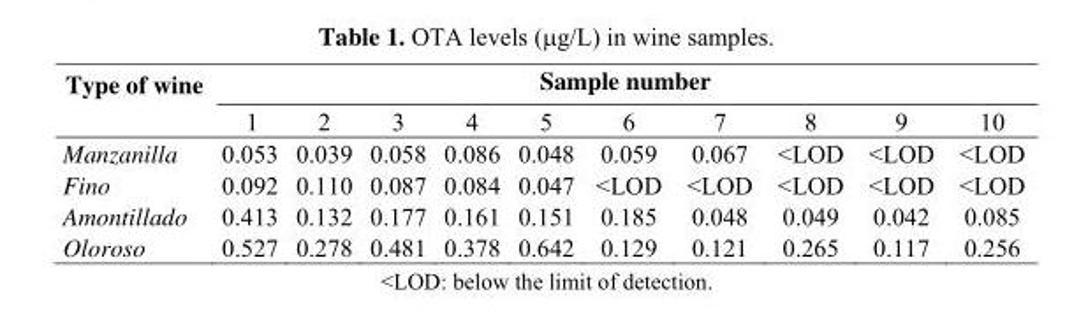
<table><thead><tr><td rowspan="2">Type of wine</td><td colspan="10">Sample number</td></tr><tr><td>1</td><td>2</td><td>3</td><td>4</td><td>5</td><td>6</td><td>7</td><td>8</td><td>9</td><td>10</td></tr></thead><tbody><tr><td>Manzanilla</td><td>0.053</td><td>0.039</td><td>0.058</td><td>0.086</td><td>0.048</td><td>0.059</td><td>0.067</td><td>&lt;LOD</td><td>&lt;LOD</td><td>&lt;LOD</td></tr><tr><td>Fino</td><td>0.092</td><td>0.110</td><td>0.087</td><td>0.084</td><td>0.047</td><td>&lt;LOD</td><td>&lt;LOD</td><td>&lt;LOD</td><td>&lt;LOD</td><td>&lt;LOD</td></tr><tr><td>Amontillado</td><td>0.413</td><td>0.132</td><td>0.177</td><td>0.161</td><td>0.151</td><td>0.185</td><td>0.048</td><td>0.049</td><td>0.042</td><td>0.085</td></tr><tr><td>Oloroso</td><td>0.527</td><td>0.278</td><td>0.481</td><td>0.378</td><td>0.642</td><td>0.129</td><td>0.121</td><td>0.265</td><td>0.117</td><td>0.256</td></tr></tbody></table>